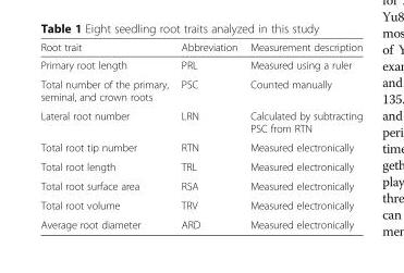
<table><thead><tr><td>Root trait</td><td>Abbreviation</td><td>Measurement description</td></tr></thead><tbody><tr><td>Primary root length</td><td>PRL</td><td>Measured using a ruler</td></tr><tr><td>Total number of the primary, seminal, and crown roots</td><td>PSC</td><td>Counted manually</td></tr><tr><td>Lateral root number</td><td>LRN</td><td>Calculated by subtracting PSC from RTN</td></tr><tr><td>Total root tip number</td><td>RTN</td><td>Measured electronically</td></tr><tr><td>Total root length</td><td>TRL</td><td>Measured electronically</td></tr><tr><td>Total root surface area</td><td>RSA</td><td>Measured electronically</td></tr><tr><td>Total root volume</td><td>TRV</td><td>Measured electronically</td></tr><tr><td>Average root diameter</td><td>ARD</td><td>Measured electronically</td></tr></tbody></table>